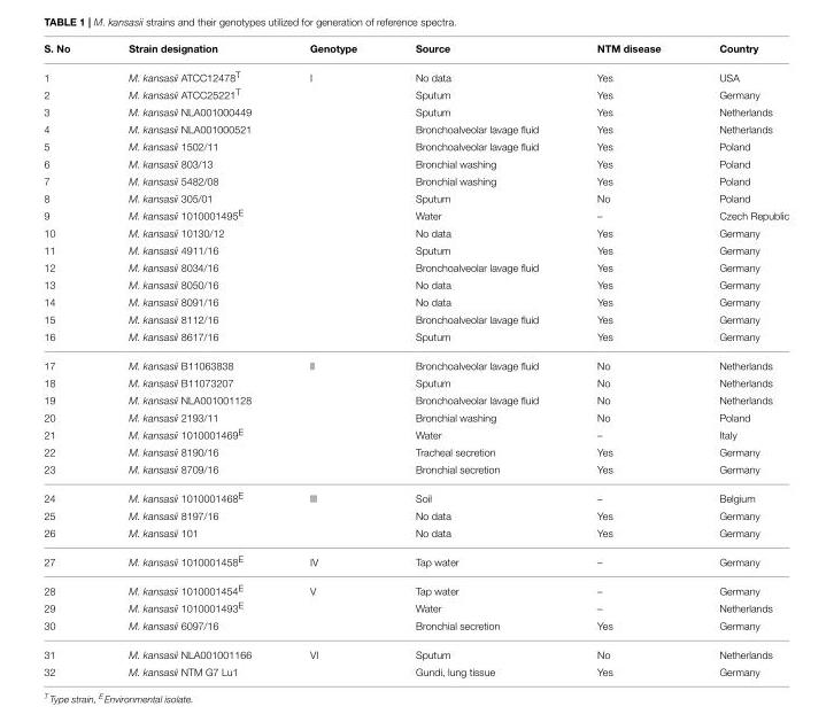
<table><thead><tr><td>S. No</td><td>Strain designation</td><td>Genotype</td><td>Source</td><td>NTM disease</td><td>Country</td></tr></thead><tbody><tr><td>1</td><td>M. kansasii ATCC12478<sup>T</sup></td><td>I</td><td>No data</td><td>Yes</td><td>USA</td></tr><tr><td>2</td><td>M. kansasii ATCC25221<sup>T</sup></td><td></td><td>Sputum</td><td>Yes</td><td>Germany</td></tr><tr><td>3</td><td>M. kansasii NLA001000449</td><td></td><td>Sputum</td><td>Yes</td><td>Netherlands</td></tr><tr><td>4</td><td>M. kansasii NLA001000521</td><td></td><td>Bronchoalveolar lavage fluid</td><td>Yes</td><td>Netherlands</td></tr><tr><td>5</td><td>M. kansasii 1502/11</td><td></td><td>Bronchoalveolar lavage fluid</td><td>Yes</td><td>Poland</td></tr><tr><td>6</td><td>M. kansasii 803/13</td><td></td><td>Bronchial washing</td><td>Yes</td><td>Poland</td></tr><tr><td>7</td><td>M. kansasii 5482/08</td><td></td><td>Bronchial washing</td><td>Yes</td><td>Poland</td></tr><tr><td>8</td><td>M. kansasii 305/01</td><td></td><td>Sputum</td><td>No</td><td>Poland</td></tr><tr><td>9</td><td>M. kansasii 1010001495<sup>E</sup></td><td></td><td>Water</td><td>–</td><td>Czech Republic</td></tr><tr><td>10</td><td>M. kansasii 10130/12</td><td></td><td>No data</td><td>Yes</td><td>Germany</td></tr><tr><td>11</td><td>M. kansasii 4911/16</td><td></td><td>Sputum</td><td>Yes</td><td>Germany</td></tr><tr><td>12</td><td>M. kansasii 8034/16</td><td></td><td>Bronchoalveolar lavage fluid</td><td>Yes</td><td>Germany</td></tr><tr><td>13</td><td>M. kansasii 8050/16</td><td></td><td>No data</td><td>Yes</td><td>Germany</td></tr><tr><td>14</td><td>M. kansasii 8091/16</td><td></td><td>No data</td><td>Yes</td><td>Germany</td></tr><tr><td>15</td><td>M. kansasii 8112/16</td><td></td><td>Bronchoalveolar lavage fluid</td><td>Yes</td><td>Germany</td></tr><tr><td>16</td><td>M. kansasii 8617/16</td><td></td><td>Sputum</td><td>Yes</td><td>Germany</td></tr><tr><td>17</td><td>M. kansasii B11063838</td><td>II</td><td>Bronchoalveolar lavage fluid</td><td>No</td><td>Netherlands</td></tr><tr><td>18</td><td>M. kansasii B11073207</td><td></td><td>Sputum</td><td>No</td><td>Netherlands</td></tr><tr><td>19</td><td>M. kansasii NLA001001128</td><td></td><td>Bronchoalveolar lavage fluid</td><td>No</td><td>Netherlands</td></tr><tr><td>20</td><td>M. kansasii 2193/11</td><td></td><td>Bronchial washing</td><td>No</td><td>Poland</td></tr><tr><td>21</td><td>M. kansasii 1010001469<sup>E</sup></td><td></td><td>Water</td><td>–</td><td>Italy</td></tr><tr><td>22</td><td>M. kansasii 8190/16</td><td></td><td>Tracheal secretion</td><td>Yes</td><td>Germany</td></tr><tr><td>23</td><td>M. kansasii 8709/16</td><td></td><td>Bronchial secretion</td><td>Yes</td><td>Germany</td></tr><tr><td>24</td><td>M. kansasii 1010001468<sup>E</sup></td><td>III</td><td>Soil</td><td>–</td><td>Belgium</td></tr><tr><td>25</td><td>M. kansasii 8197/16</td><td></td><td>No data</td><td>Yes</td><td>Germany</td></tr><tr><td>26</td><td>M. kansasii 101</td><td></td><td>No data</td><td>Yes</td><td>Germany</td></tr><tr><td>27</td><td>M. kansasii 1010001458<sup>E</sup></td><td>IV</td><td>Tap water</td><td>–</td><td>Germany</td></tr><tr><td>28</td><td>M. kansasii 1010001454<sup>E</sup></td><td>V</td><td>Tap water</td><td>–</td><td>Germany</td></tr><tr><td>29</td><td>M. kansasii 1010001493<sup>E</sup></td><td></td><td>Water</td><td>–</td><td>Netherlands</td></tr><tr><td>30</td><td>M. kansasii 6097/16</td><td></td><td>Bronchial secretion</td><td>Yes</td><td>Germany</td></tr><tr><td>31</td><td>M. kansasii NLA001001166</td><td>VI</td><td>Sputum</td><td>No</td><td>Netherlands</td></tr><tr><td>32</td><td>M. kansasii NTM G7 Lu1</td><td></td><td>Gundi, lung tissue</td><td>Yes</td><td>Germany</td></tr></tbody></table>